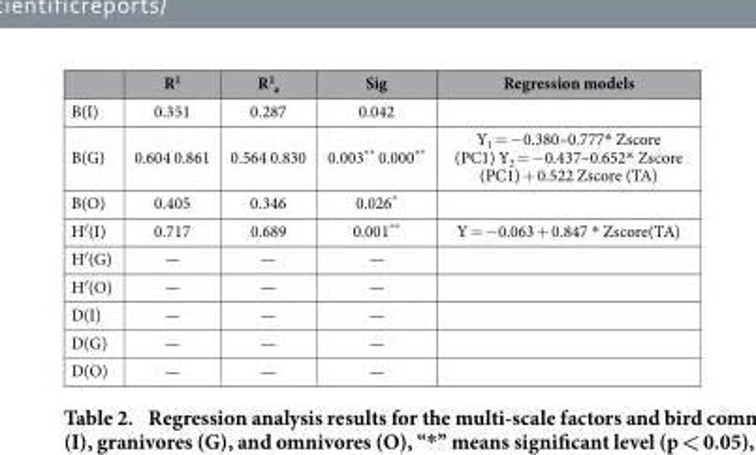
<table><thead><tr><td></td><td>R<sup>2</sup></td><td>R<sup>2</sup> <sub>a</sub></td><td>Sig</td><td>Regression models</td></tr></thead><tbody><tr><td>B(I)</td><td>0.351</td><td>0.287</td><td>0.042</td><td></td></tr><tr><td>B(G)</td><td>0.604 0.861</td><td>0.564 0.830</td><td>0.003** 0.000**</td><td>Y<sub>1</sub> = − 0.380–0.777* Zscore (PC1) Y<sub>2</sub> = − 0.437–0.652* Zscore (PC1) + 0.522 Zscore (TA)</td></tr><tr><td>B(O)</td><td>0.405</td><td>0.346</td><td>0.026*</td><td></td></tr><tr><td>H′(I)</td><td>0.717</td><td>0.689</td><td>0.001**</td><td>Y = − 0.063 + 0.847 * Zscore(TA)</td></tr><tr><td>H′(G)</td><td>—</td><td>—</td><td>—</td><td></td></tr><tr><td>H′(O)</td><td>—</td><td>—</td><td>—</td><td></td></tr><tr><td>D(I)</td><td>—</td><td>—</td><td>—</td><td></td></tr><tr><td>D(G)</td><td>—</td><td>—</td><td>—</td><td></td></tr><tr><td>D(O)</td><td>—</td><td>—</td><td>—</td><td></td></tr></tbody></table>